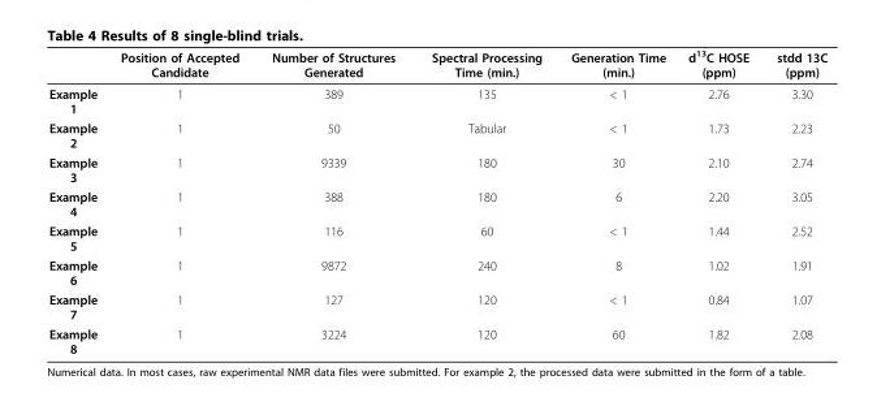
<table><thead><tr><td></td><td>Position of Accepted Candidate</td><td>Number of Structures Generated</td><td>Spectral Processing Time (min.)</td><td>Generation Time (min.)</td><td>d<sup>13</sup>C HOSE (ppm)</td><td>stdd 13C (ppm)</td></tr></thead><tbody><tr><td>Example 1</td><td>1</td><td>389</td><td>135</td><td>&lt; 1</td><td>2.76</td><td>3.30</td></tr><tr><td>Example 2</td><td>1</td><td>50</td><td>Tabular</td><td>&lt; 1</td><td>1.73</td><td>2.23</td></tr><tr><td>Example 3</td><td>1</td><td>9339</td><td>180</td><td>30</td><td>2.10</td><td>2.74</td></tr><tr><td>Example 4</td><td>1</td><td>388</td><td>180</td><td>6</td><td>2.20</td><td>3.05</td></tr><tr><td>Example 5</td><td>1</td><td>116</td><td>60</td><td>&lt; 1</td><td>1.44</td><td>2.52</td></tr><tr><td>Example 6</td><td>1</td><td>9872</td><td>240</td><td>8</td><td>1.02</td><td>1.91</td></tr><tr><td>Example 7</td><td>1</td><td>127</td><td>120</td><td>&lt; 1</td><td>0.84</td><td>1.07</td></tr><tr><td>Example 8</td><td>1</td><td>3224</td><td>120</td><td>60</td><td>1.82</td><td>2.08</td></tr></tbody></table>